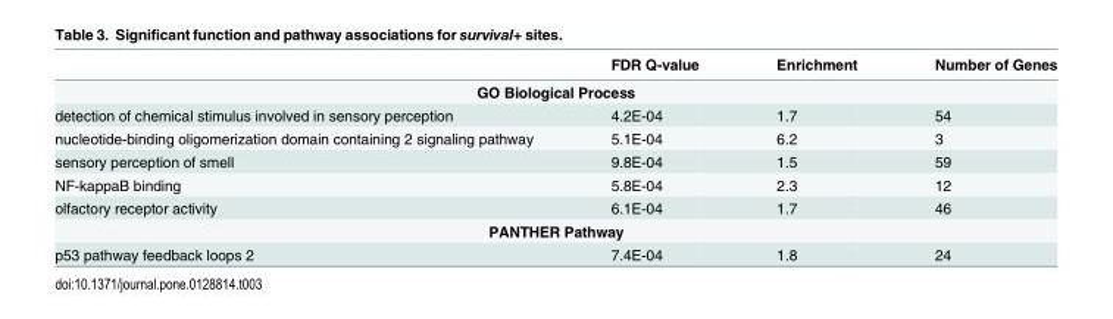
<table><thead><tr><td></td><td>FDR Q-value</td><td>Enrichment</td><td>Number of Genes</td></tr></thead><tbody><tr><td colspan="4">GO Biological Process</td></tr><tr><td>detection of chemical stimulus involved in sensory perception</td><td>4.2E-04</td><td>1.7</td><td>54</td></tr><tr><td>nucleotide-binding oligomerization domain containing 2 signaling pathway</td><td>5.1E-04</td><td>6.2</td><td>3</td></tr><tr><td>sensory perception of smell</td><td>9.8E-04</td><td>1.5</td><td>59</td></tr><tr><td>NF-kappaB binding</td><td>5.8E-04</td><td>2.3</td><td>12</td></tr><tr><td>olfactory receptor activity</td><td>6.1E-04</td><td>1.7</td><td>46</td></tr><tr><td colspan="4">PANTHER Pathway</td></tr><tr><td>p53 pathway feedback loops 2</td><td>7.4E-04</td><td>1.8</td><td>24</td></tr></tbody></table>